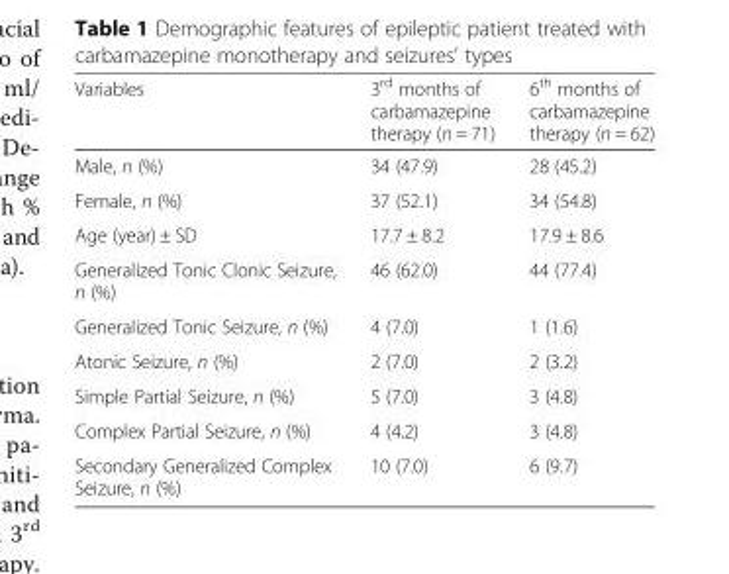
<table><thead><tr><td>Variables</td><td>3<sup>rd</sup> months of carbamazepine therapy (n = 71)</td><td>6<sup>th</sup> months of carbamazepine therapy (n = 62)</td></tr></thead><tbody><tr><td>Male, n (%)</td><td>34 (47.9)</td><td>28 (45.2)</td></tr><tr><td>Female, n (%)</td><td>37 (52.1)</td><td>34 (54.8)</td></tr><tr><td>Age (year) ± SD</td><td>17.7 ± 8.2</td><td>17.9 ± 8.6</td></tr><tr><td>Generalized Tonic Clonic Seizure, n (%)</td><td>46 (62.0)</td><td>44 (77.4)</td></tr><tr><td>Generalized Tonic Seizure, n (%)</td><td>4 (7.0)</td><td>1 (1.6)</td></tr><tr><td>Atonic Seizure, n (%)</td><td>2 (7.0)</td><td>2 (3.2)</td></tr><tr><td>Simple Partial Seizure, n (%)</td><td>5 (7.0)</td><td>3 (4.8)</td></tr><tr><td>Complex Partial Seizure, n (%)</td><td>4 (4.2)</td><td>3 (4.8)</td></tr><tr><td>Secondary Generalized Complex Seizure, n (%)</td><td>10 (7.0)</td><td>6 (9.7)</td></tr></tbody></table>